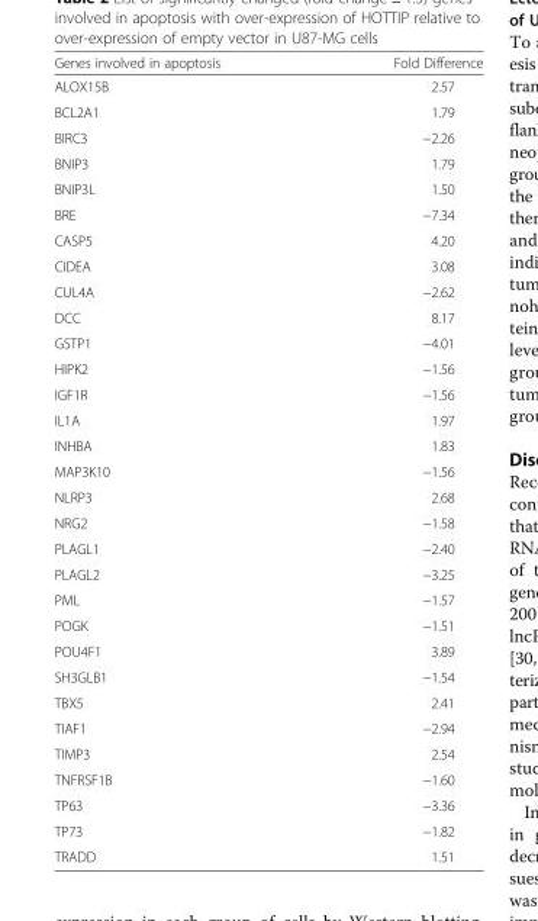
<table><thead><tr><td>Genes involved in apoptosis</td><td>Fold Difference</td></tr></thead><tbody><tr><td>ALOX15B</td><td>2.57</td></tr><tr><td>BCL2A1</td><td>1.79</td></tr><tr><td>BIRC3</td><td>−2.26</td></tr><tr><td>BNIP3</td><td>1.79</td></tr><tr><td>BNIP3L</td><td>1.50</td></tr><tr><td>BRE</td><td>−7.34</td></tr><tr><td>CASP5</td><td>4.20</td></tr><tr><td>CIDEA</td><td>3.08</td></tr><tr><td>CUL4A</td><td>−2.62</td></tr><tr><td>DCC</td><td>8.17</td></tr><tr><td>GSTP1</td><td>−4.01</td></tr><tr><td>HIPK2</td><td>−1.56</td></tr><tr><td>IGF1R</td><td>−1.56</td></tr><tr><td>IL1A</td><td>1.97</td></tr><tr><td>INHBA</td><td>1.83</td></tr><tr><td>MAP3K10</td><td>−1.56</td></tr><tr><td>NLRP3</td><td>2.68</td></tr><tr><td>NRG2</td><td>−1.58</td></tr><tr><td>PLAGL1</td><td>−2.40</td></tr><tr><td>PLAGL2</td><td>−3.25</td></tr><tr><td>PML</td><td>−1.57</td></tr><tr><td>POGK</td><td>−1.51</td></tr><tr><td>POU4F1</td><td>3.89</td></tr><tr><td>SH3GLB1</td><td>−1.54</td></tr><tr><td>TBX5</td><td>2.41</td></tr><tr><td>TIAF1</td><td>−2.94</td></tr><tr><td>TIMP3</td><td>2.54</td></tr><tr><td>TNFRSF1B</td><td>−1.60</td></tr><tr><td>TP63</td><td>−3.36</td></tr><tr><td>TP73</td><td>−1.82</td></tr><tr><td>TRADD</td><td>1.51</td></tr></tbody></table>